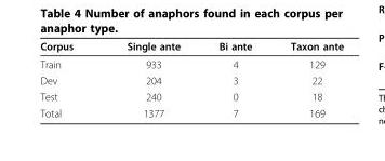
<table><thead><tr><td>Corpus</td><td>Single ante</td><td>Bi ante</td><td>Taxon ante</td></tr></thead><tbody><tr><td>Train</td><td>933</td><td>4</td><td>129</td></tr><tr><td>Dev</td><td>204</td><td>3</td><td>22</td></tr><tr><td>Test</td><td>240</td><td>0</td><td>18</td></tr><tr><td>Total</td><td>1377</td><td>7</td><td>169</td></tr></tbody></table>